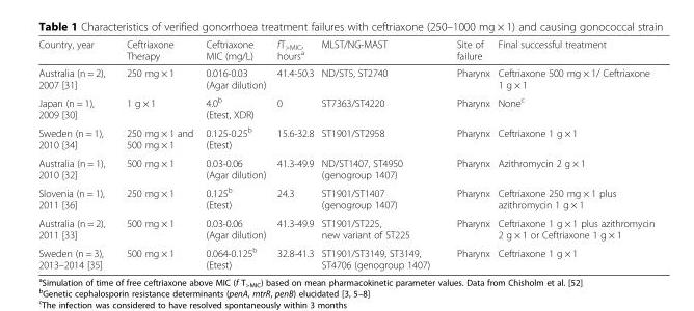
<table><thead><tr><td>Country, year</td><td>Ceftriaxone Therapy</td><td>Ceftriaxone MIC (mg/L)</td><td>fT<sub>&gt;MIC</sub>, hours<sup>a</sup></td><td>MLST/NG-MAST</td><td>Site of failure</td><td>Final successful treatment</td></tr></thead><tbody><tr><td>Australia (n = 2), 2007 [31]</td><td>250 mg × 1</td><td>0.016-0.03 (Agar dilution)</td><td>41.4-50.3</td><td>ND/ST5, ST2740</td><td>Pharynx</td><td>Ceftriaxone 500 mg × 1/ Ceftriaxone 1 g × 1</td></tr><tr><td>Japan (n = 1), 2009 [30]</td><td>1 g × 1</td><td>4.0<sup>b</sup> (Etest, XDR)</td><td>0</td><td>ST7363/ST4220</td><td>Pharynx</td><td>None<sup>c</sup></td></tr><tr><td>Sweden (n = 1), 2010 [34]</td><td>250 mg × 1 and 500 mg × 1</td><td>0.125-0.25<sup>b</sup> (Etest)</td><td>15.6-32.8</td><td>ST1901/ST2958</td><td>Pharynx</td><td>Ceftriaxone 1 g × 1</td></tr><tr><td>Australia (n = 1), 2010 [32]</td><td>500 mg × 1</td><td>0.03-0.06 (Agar dilution)</td><td>41.3-49.9</td><td>ND/ST1407, ST4950 (genogroup 1407)</td><td>Pharynx</td><td>Azithromycin 2 g × 1</td></tr><tr><td>Slovenia (n = 1), 2011 [36]</td><td>250 mg × 1</td><td>0.125<sup>b</sup> (Etest)</td><td>24.3</td><td>ST1901/ST1407 (genogroup 1407)</td><td>Pharynx</td><td>Ceftriaxone 250 mg × 1 plus azithromycin 1 g × 1</td></tr><tr><td>Australia (n = 2), 2011 [33]</td><td>500 mg × 1</td><td>0.03-0.06 (Agar dilution)</td><td>41.3-49.9</td><td>ST1901/ST225, new variant of ST225</td><td>Pharynx</td><td>Ceftriaxone 1 g × 1 plus azithromycin 2 g × 1 or Ceftriaxone 1 g × 1</td></tr><tr><td>Sweden (n = 3), 2013–2014 [35]</td><td>500 mg × 1</td><td>0.064-0.125<sup>b</sup> (Etest)</td><td>32.8-41.3</td><td>ST1901/ST3149, ST3149, ST4706 (genogroup 1407)</td><td>Pharynx</td><td>Ceftriaxone 1 g × 1</td></tr></tbody></table>